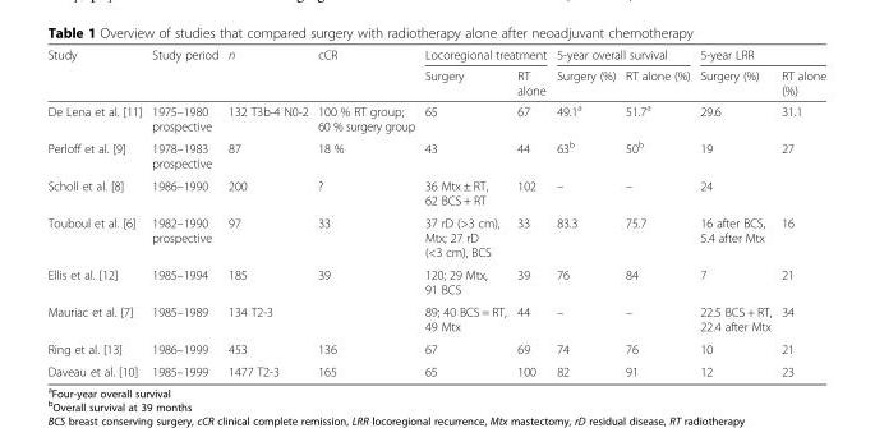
<table><thead><tr><td rowspan="2">Study</td><td rowspan="2">Study period</td><td rowspan="2">n</td><td rowspan="2">cCR</td><td colspan="2">Locoregional treatment</td><td colspan="2">5-year overall survival</td><td colspan="2">5-year LRR</td></tr><tr><td>Surgery</td><td>RT alone</td><td>Surgery (%)</td><td>RT alone (%)</td><td>Surgery (%)</td><td>RT alone (%)</td></tr></thead><tbody><tr><td>De Lena et al. [11]</td><td>1975–1980 prospective</td><td>132 T3b-4 N0-2</td><td>100 % RT group; 60 % surgery group</td><td>65</td><td>67</td><td>49.1<sup>a</sup></td><td>51.7<sup>a</sup></td><td>29.6</td><td>31.1</td></tr><tr><td>Perloff et al. [9]</td><td>1978–1983 prospective</td><td>87</td><td>18 %</td><td>43</td><td>44</td><td>63<sup>b</sup></td><td>50<sup>b</sup></td><td>19</td><td>27</td></tr><tr><td>Scholl et al. [8]</td><td>1986–1990</td><td>200</td><td>?</td><td>36 Mtx ± RT, 62 BCS + RT</td><td>102</td><td>–</td><td>–</td><td>24</td><td></td></tr><tr><td>Touboul et al. [6]</td><td>1982–1990 prospective</td><td>97</td><td>33</td><td>37 rD (&gt;3 cm), Mtx; 27 rD (&lt;3 cm), BCS</td><td>33</td><td>83.3</td><td>75.7</td><td>16 after BCS, 5.4 after Mtx</td><td>16</td></tr><tr><td>Ellis et al. [12]</td><td>1985–1994</td><td>185</td><td>39</td><td>120; 29 Mtx, 91 BCS</td><td>39</td><td>76</td><td>84</td><td>7</td><td>21</td></tr><tr><td>Mauriac et al. [7]</td><td>1985–1989</td><td>134 T2-3</td><td></td><td>89; 40 BCS = RT, 49 Mtx</td><td>44</td><td>–</td><td>–</td><td>22.5 BCS + RT, 22.4 after Mtx</td><td>34</td></tr><tr><td>Ring et al. [13]</td><td>1986–1999</td><td>453</td><td>136</td><td>67</td><td>69</td><td>74</td><td>76</td><td>10</td><td>21</td></tr><tr><td>Daveau et al. [10]</td><td>1985–1999</td><td>1477 T2-3</td><td>165</td><td>65</td><td>100</td><td>82</td><td>91</td><td>12</td><td>23</td></tr></tbody></table>